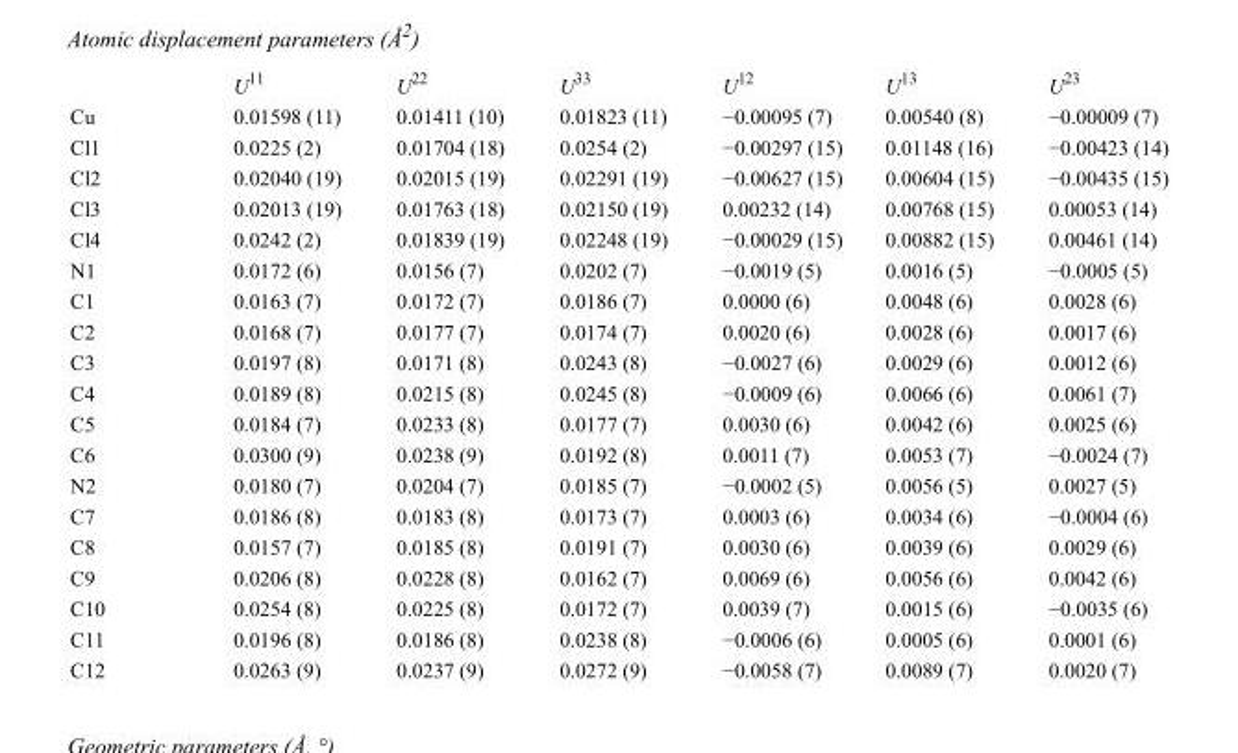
<table><thead><tr><td></td><td>U<sup>11</sup></td><td>U<sup>22</sup></td><td>U<sup>33</sup></td><td>U<sup>12</sup></td><td>U<sup>13</sup></td><td>U<sup>23</sup></td></tr></thead><tbody><tr><td>Cu</td><td>0.01598 (11)</td><td>0.01411 (10)</td><td>0.01823 (11)</td><td>−0.00095 (7)</td><td>0.00540 (8)</td><td>−0.00009 (7)</td></tr><tr><td>Cl1</td><td>0.0225 (2)</td><td>0.01704 (18)</td><td>0.0254 (2)</td><td>−0.00297 (15)</td><td>0.01148 (16)</td><td>−0.00423 (14)</td></tr><tr><td>Cl2</td><td>0.02040 (19)</td><td>0.02015 (19)</td><td>0.02291 (19)</td><td>−0.00627 (15)</td><td>0.00604 (15)</td><td>−0.00435 (15)</td></tr><tr><td>Cl3</td><td>0.02013 (19)</td><td>0.01763 (18)</td><td>0.02150 (19)</td><td>0.00232 (14)</td><td>0.00768 (15)</td><td>0.00053 (14)</td></tr><tr><td>Cl4</td><td>0.0242 (2)</td><td>0.01839 (19)</td><td>0.02248 (19)</td><td>−0.00029 (15)</td><td>0.00882 (15)</td><td>0.00461 (14)</td></tr><tr><td>N1</td><td>0.0172 (6)</td><td>0.0156 (7)</td><td>0.0202 (7)</td><td>−0.0019 (5)</td><td>0.0016 (5)</td><td>−0.0005 (5)</td></tr><tr><td>C1</td><td>0.0163 (7)</td><td>0.0172 (7)</td><td>0.0186 (7)</td><td>0.0000 (6)</td><td>0.0048 (6)</td><td>0.0028 (6)</td></tr><tr><td>C2</td><td>0.0168 (7)</td><td>0.0177 (7)</td><td>0.0174 (7)</td><td>0.0020 (6)</td><td>0.0028 (6)</td><td>0.0017 (6)</td></tr><tr><td>C3</td><td>0.0197 (8)</td><td>0.0171 (8)</td><td>0.0243 (8)</td><td>−0.0027 (6)</td><td>0.0029 (6)</td><td>0.0012 (6)</td></tr><tr><td>C4</td><td>0.0189 (8)</td><td>0.0215 (8)</td><td>0.0245 (8)</td><td>−0.0009 (6)</td><td>0.0066 (6)</td><td>0.0061 (7)</td></tr><tr><td>C5</td><td>0.0184 (7)</td><td>0.0233 (8)</td><td>0.0177 (7)</td><td>0.0030 (6)</td><td>0.0042 (6)</td><td>0.0025 (6)</td></tr><tr><td>C6</td><td>0.0300 (9)</td><td>0.0238 (9)</td><td>0.0192 (8)</td><td>0.0011 (7)</td><td>0.0053 (7)</td><td>−0.0024 (7)</td></tr><tr><td>N2</td><td>0.0180 (7)</td><td>0.0204 (7)</td><td>0.0185 (7)</td><td>−0.0002 (5)</td><td>0.0056 (5)</td><td>0.0027 (5)</td></tr><tr><td>C7</td><td>0.0186 (8)</td><td>0.0183 (8)</td><td>0.0173 (7)</td><td>0.0003 (6)</td><td>0.0034 (6)</td><td>−0.0004 (6)</td></tr><tr><td>C8</td><td>0.0157 (7)</td><td>0.0185 (8)</td><td>0.0191 (7)</td><td>0.0030 (6)</td><td>0.0039 (6)</td><td>0.0029 (6)</td></tr><tr><td>C9</td><td>0.0206 (8)</td><td>0.0228 (8)</td><td>0.0162 (7)</td><td>0.0069 (6)</td><td>0.0056 (6)</td><td>0.0042 (6)</td></tr><tr><td>C10</td><td>0.0254 (8)</td><td>0.0225 (8)</td><td>0.0172 (7)</td><td>0.0039 (7)</td><td>0.0015 (6)</td><td>−0.0035 (6)</td></tr><tr><td>C11</td><td>0.0196 (8)</td><td>0.0186 (8)</td><td>0.0238 (8)</td><td>−0.0006 (6)</td><td>0.0005 (6)</td><td>0.0001 (6)</td></tr><tr><td>C12</td><td>0.0263 (9)</td><td>0.0237 (9)</td><td>0.0272 (9)</td><td>−0.0058 (7)</td><td>0.0089 (7)</td><td>0.0020 (7)</td></tr></tbody></table>